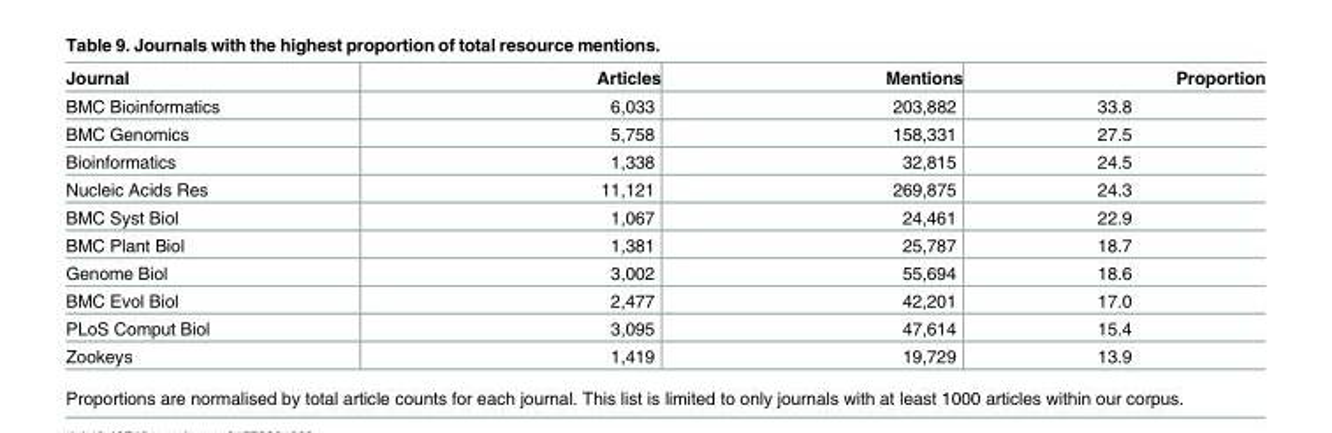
<table><thead><tr><td>Journal</td><td>Articles</td><td>Mentions</td><td>Proportion</td></tr></thead><tbody><tr><td>BMC Bioinformatics</td><td>6,033</td><td>203,882</td><td>33.8</td></tr><tr><td>BMC Genomics</td><td>5,758</td><td>158,331</td><td>27.5</td></tr><tr><td>Bioinformatics</td><td>1,338</td><td>32,815</td><td>24.5</td></tr><tr><td>Nucleic Acids Res</td><td>11,121</td><td>269,875</td><td>24.3</td></tr><tr><td>BMC Syst Biol</td><td>1,067</td><td>24,461</td><td>22.9</td></tr><tr><td>BMC Plant Biol</td><td>1,381</td><td>25,787</td><td>18.7</td></tr><tr><td>Genome Biol</td><td>3,002</td><td>55,694</td><td>18.6</td></tr><tr><td>BMC Evol Biol</td><td>2,477</td><td>42,201</td><td>17.0</td></tr><tr><td>PLoS Comput Biol</td><td>3,095</td><td>47,614</td><td>15.4</td></tr><tr><td>Zookeys</td><td>1,419</td><td>19,729</td><td>13.9</td></tr></tbody></table>